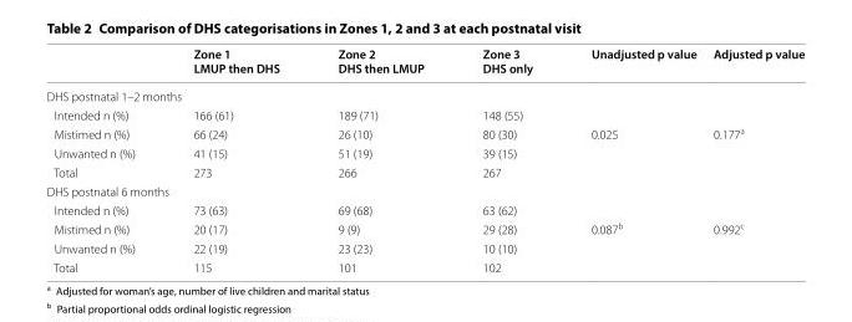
<table><thead><tr><td></td><td>Zone 1 LMUP then DHS</td><td>Zone 2 DHS then LMUP</td><td>Zone 3 DHS only</td><td>Unadjusted p value</td><td>Adjusted p value</td></tr></thead><tbody><tr><td colspan="6">DHS postnatal 1–2 months</td></tr><tr><td>Intended n (%)</td><td>166 (61)</td><td>189 (71)</td><td>148 (55)</td><td></td><td></td></tr><tr><td>Mistimed n (%)</td><td>66 (24)</td><td>26 (10)</td><td>80 (30)</td><td>0.025</td><td>0.177<sup>a</sup></td></tr><tr><td>Unwanted n (%)</td><td>41 (15)</td><td>51 (19)</td><td>39 (15)</td><td></td><td></td></tr><tr><td>Total</td><td>273</td><td>266</td><td>267</td><td></td><td></td></tr><tr><td colspan="6">DHS postnatal 6 months</td></tr><tr><td>Intended n (%)</td><td>73 (63)</td><td>69 (68)</td><td>63 (62)</td><td></td><td></td></tr><tr><td>Mistimed n (%)</td><td>20 (17)</td><td>9 (9)</td><td>29 (28)</td><td>0.087<sup>b</sup></td><td>0.992<sup>c</sup></td></tr><tr><td>Unwanted n (%)</td><td>22 (19)</td><td>23 (23)</td><td>10 (10)</td><td></td><td></td></tr><tr><td>Total</td><td>115</td><td>101</td><td>102</td><td></td><td></td></tr></tbody></table>